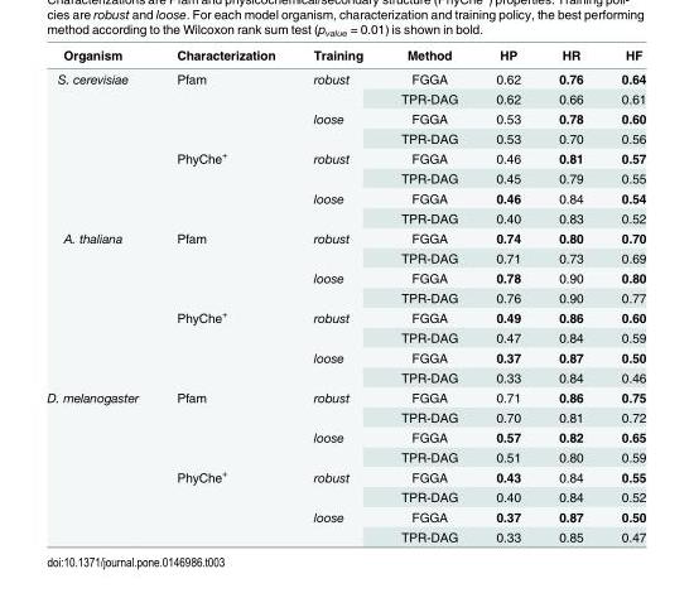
<table><thead><tr><td>Organism</td><td>Characterization</td><td>Training</td><td>Method</td><td>HP</td><td>HR</td><td>HF</td></tr></thead><tbody><tr><td rowspan="8">S. cerevisiae</td><td rowspan="4">Pfam</td><td rowspan="2">robust</td><td>FGGA</td><td>0.62</td><td>0.76</td><td>0.64</td></tr><tr><td>TPR-DAG</td><td>0.62</td><td>0.66</td><td>0.61</td></tr><tr><td rowspan="2">loose</td><td>FGGA</td><td>0.53</td><td>0.78</td><td>0.60</td></tr><tr><td>TPR-DAG</td><td>0.53</td><td>0.70</td><td>0.56</td></tr><tr><td rowspan="4">PhyChe<sup>+</sup></td><td rowspan="2">robust</td><td>FGGA</td><td>0.46</td><td>0.81</td><td>0.57</td></tr><tr><td>TPR-DAG</td><td>0.45</td><td>0.79</td><td>0.55</td></tr><tr><td rowspan="2">loose</td><td>FGGA</td><td>0.46</td><td>0.84</td><td>0.54</td></tr><tr><td>TPR-DAG</td><td>0.40</td><td>0.83</td><td>0.52</td></tr><tr><td rowspan="8">A. thaliana</td><td rowspan="4">Pfam</td><td rowspan="2">robust</td><td>FGGA</td><td>0.74</td><td>0.80</td><td>0.70</td></tr><tr><td>TPR-DAG</td><td>0.71</td><td>0.73</td><td>0.69</td></tr><tr><td rowspan="2">loose</td><td>FGGA</td><td>0.78</td><td>0.90</td><td>0.80</td></tr><tr><td>TPR-DAG</td><td>0.76</td><td>0.90</td><td>0.77</td></tr><tr><td rowspan="4">PhyChe<sup>+</sup></td><td rowspan="2">robust</td><td>FGGA</td><td>0.49</td><td>0.86</td><td>0.60</td></tr><tr><td>TPR-DAG</td><td>0.47</td><td>0.84</td><td>0.59</td></tr><tr><td rowspan="2">loose</td><td>FGGA</td><td>0.37</td><td>0.87</td><td>0.50</td></tr><tr><td>TPR-DAG</td><td>0.33</td><td>0.84</td><td>0.46</td></tr><tr><td rowspan="8">D. melanogaster</td><td rowspan="4">Pfam</td><td rowspan="2">robust</td><td>FGGA</td><td>0.71</td><td>0.86</td><td>0.75</td></tr><tr><td>TPR-DAG</td><td>0.70</td><td>0.81</td><td>0.72</td></tr><tr><td rowspan="2">loose</td><td>FGGA</td><td>0.57</td><td>0.82</td><td>0.65</td></tr><tr><td>TPR-DAG</td><td>0.51</td><td>0.80</td><td>0.59</td></tr><tr><td rowspan="4">PhyChe<sup>+</sup></td><td rowspan="2">robust</td><td>FGGA</td><td>0.43</td><td>0.84</td><td>0.55</td></tr><tr><td>TPR-DAG</td><td>0.40</td><td>0.84</td><td>0.52</td></tr><tr><td rowspan="2">loose</td><td>FGGA</td><td>0.37</td><td>0.87</td><td>0.50</td></tr><tr><td>TPR-DAG</td><td>0.33</td><td>0.85</td><td>0.47</td></tr></tbody></table>